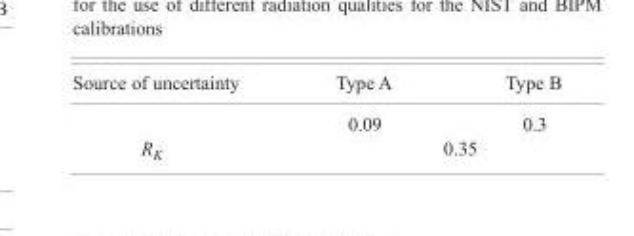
<table><thead><tr><td>Source of uncertainty</td><td>Type A</td><td></td><td>Type B</td></tr></thead><tbody><tr><td></td><td>0.09</td><td></td><td>0.3</td></tr><tr><td>R<sub>K</sub></td><td></td><td>0.35</td><td></td></tr></tbody></table>